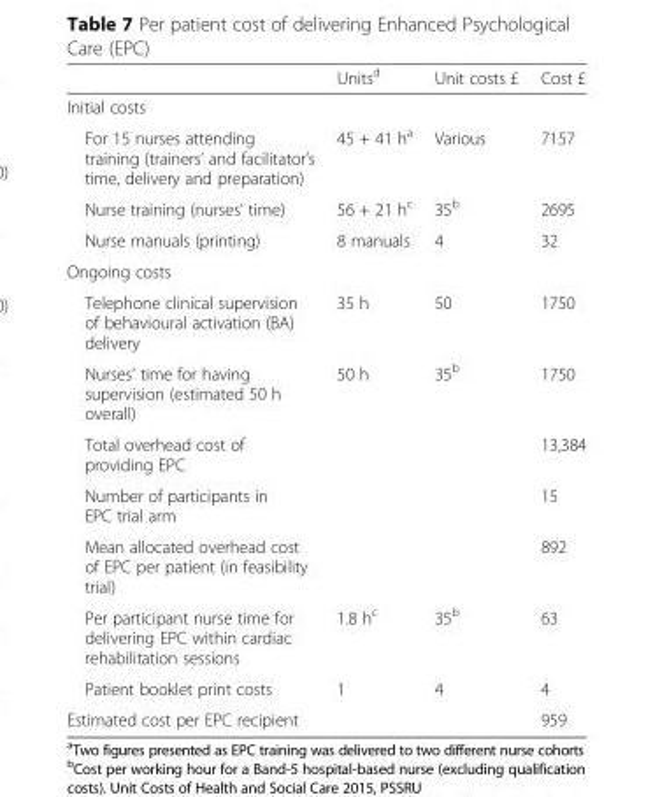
<table><thead><tr><td></td><td>Units<sup>d</sup></td><td>Unit costs £</td><td>Cost £</td></tr></thead><tbody><tr><td colspan="4">Initial costs</td></tr><tr><td>For 15 nurses attending training (trainers’ and facilitator’s time, delivery and preparation)</td><td>45 + 41 h<sup>a</sup></td><td>Various</td><td>7157</td></tr><tr><td>Nurse training (nurses’ time)</td><td>56 + 21 h<sup>c</sup></td><td>35<sup>b</sup></td><td>2695</td></tr><tr><td>Nurse manuals (printing)</td><td>8 manuals</td><td>4</td><td>32</td></tr><tr><td colspan="4">Ongoing costs</td></tr><tr><td>Telephone clinical supervision of behavioural activation (BA) delivery</td><td>35 h</td><td>50</td><td>1750</td></tr><tr><td>Nurses’ time for having supervision (estimated 50 h overall)</td><td>50 h</td><td>35<sup>b</sup></td><td>1750</td></tr><tr><td>Total overhead cost of providing EPC</td><td></td><td></td><td>13,384</td></tr><tr><td>Number of participants in EPC trial arm</td><td></td><td></td><td>15</td></tr><tr><td>Mean allocated overhead cost of EPC per patient (in feasibility trial)</td><td></td><td></td><td>892</td></tr><tr><td>Per participant nurse time for delivering EPC within cardiac rehabilitation sessions</td><td>1.8 h<sup>c</sup></td><td>35<sup>b</sup></td><td>63</td></tr><tr><td>Patient booklet print costs</td><td>1</td><td>4</td><td>4</td></tr><tr><td>Estimated cost per EPC recipient</td><td></td><td></td><td>959</td></tr></tbody></table>